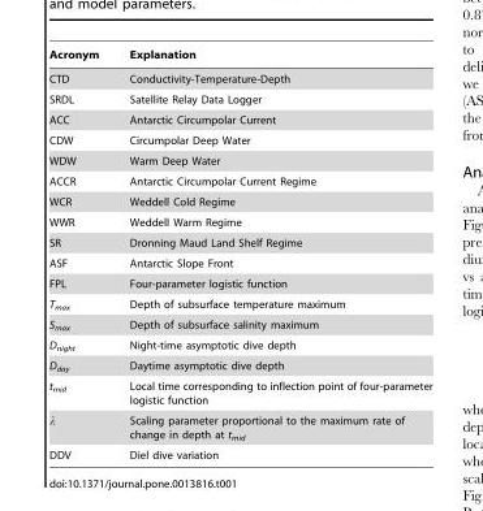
<table><thead><tr><td>Acronym</td><td>Explanation</td></tr></thead><tbody><tr><td>CTD</td><td>Conductivity-Temperature-Depth</td></tr><tr><td>SRDL</td><td>Satellite Relay Data Logger</td></tr><tr><td>ACC</td><td>Antarctic Circumpolar Current</td></tr><tr><td>CDW</td><td>Circumpolar Deep Water</td></tr><tr><td>WDW</td><td>Warm Deep Water</td></tr><tr><td>ACCR</td><td>Antarctic Circumpolar Current Regime</td></tr><tr><td>WCR</td><td>Weddell Cold Regime</td></tr><tr><td>WWR</td><td>Weddell Warm Regime</td></tr><tr><td>SR</td><td>Dronning Maud Land Shelf Regime</td></tr><tr><td>ASF</td><td>Antarctic Slope Front</td></tr><tr><td>FPL</td><td>Four-parameter logistic function</td></tr><tr><td>T<sub>max</sub></td><td>Depth of subsurface temperature maximum</td></tr><tr><td>S<sub>max</sub></td><td>Depth of subsurface salinity maximum</td></tr><tr><td>D<sub>night</sub></td><td>Night-time asymptotic dive depth</td></tr><tr><td>D<sub>day</sub></td><td>Daytime asymptotic dive depth</td></tr><tr><td>t<sub>mid</sub></td><td>Local time corresponding to inflection point of four-parameter logistic function</td></tr><tr><td>λ</td><td>Scaling parameter proportional to the maximum rate of change in depth at t<sub>mid</sub></td></tr><tr><td>DDV</td><td>Diel dive variation</td></tr></tbody></table>